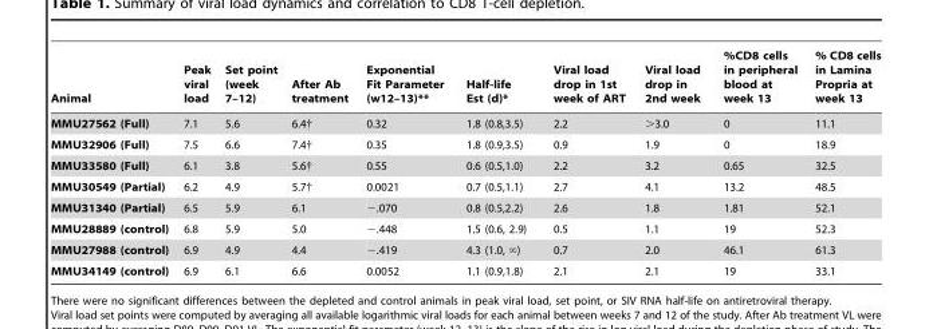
<table><thead><tr><td>Animal</td><td>Peak viral load</td><td>Set point (week 7–12)</td><td>After Ab treatment</td><td>Exponential Fit Parameter (w12–13)**</td><td>Half-life Est (d)*</td><td>Viral load drop in 1st week of ART</td><td>Viral load drop in 2nd week</td><td>%CD8 cells in peripheral blood at week 13</td><td>% CD8 cells in Lamina Propria at week 13</td></tr></thead><tbody><tr><td>MMU27562 (Full)</td><td>7.1</td><td>5.6</td><td>6.4†</td><td>0.32</td><td>1.8 (0.8,3.5)</td><td>2.2</td><td>&gt;3.0</td><td>0</td><td>11.1</td></tr><tr><td>MMU32906 (Full)</td><td>7.5</td><td>6.6</td><td>7.4†</td><td>0.35</td><td>1.8 (0.9,3.5)</td><td>0.9</td><td>1.9</td><td>0</td><td>18.9</td></tr><tr><td>MMU33580 (Full)</td><td>6.1</td><td>3.8</td><td>5.6†</td><td>0.55</td><td>0.6 (0.5,1.0)</td><td>2.2</td><td>3.2</td><td>0.65</td><td>32.5</td></tr><tr><td>MMU30549 (Partial)</td><td>6.2</td><td>4.9</td><td>5.7†</td><td>0.0021</td><td>0.7 (0.5,1.1)</td><td>2.7</td><td>4.1</td><td>13.2</td><td>48.5</td></tr><tr><td>MMU31340 (Partial)</td><td>6.5</td><td>5.9</td><td>6.1</td><td>−.070</td><td>0.8 (0.5,2.2)</td><td>2.6</td><td>1.8</td><td>1.81</td><td>52.1</td></tr><tr><td>MMU28889 (control)</td><td>6.8</td><td>5.9</td><td>5.0</td><td>−.448</td><td>1.5 (0.6, 2.9)</td><td>0.5</td><td>1.1</td><td>19</td><td>52.3</td></tr><tr><td>MMU27988 (control)</td><td>6.9</td><td>4.9</td><td>4.4</td><td>−.419</td><td>4.3 (1.0, ‘)</td><td>0.7</td><td>2.0</td><td>46.1</td><td>61.3</td></tr><tr><td>MMU34149 (control)</td><td>6.9</td><td>6.1</td><td>6.6</td><td>0.0052</td><td>1.1 (0.9,1.8)</td><td>2.1</td><td>2.1</td><td>19</td><td>33.1</td></tr></tbody></table>